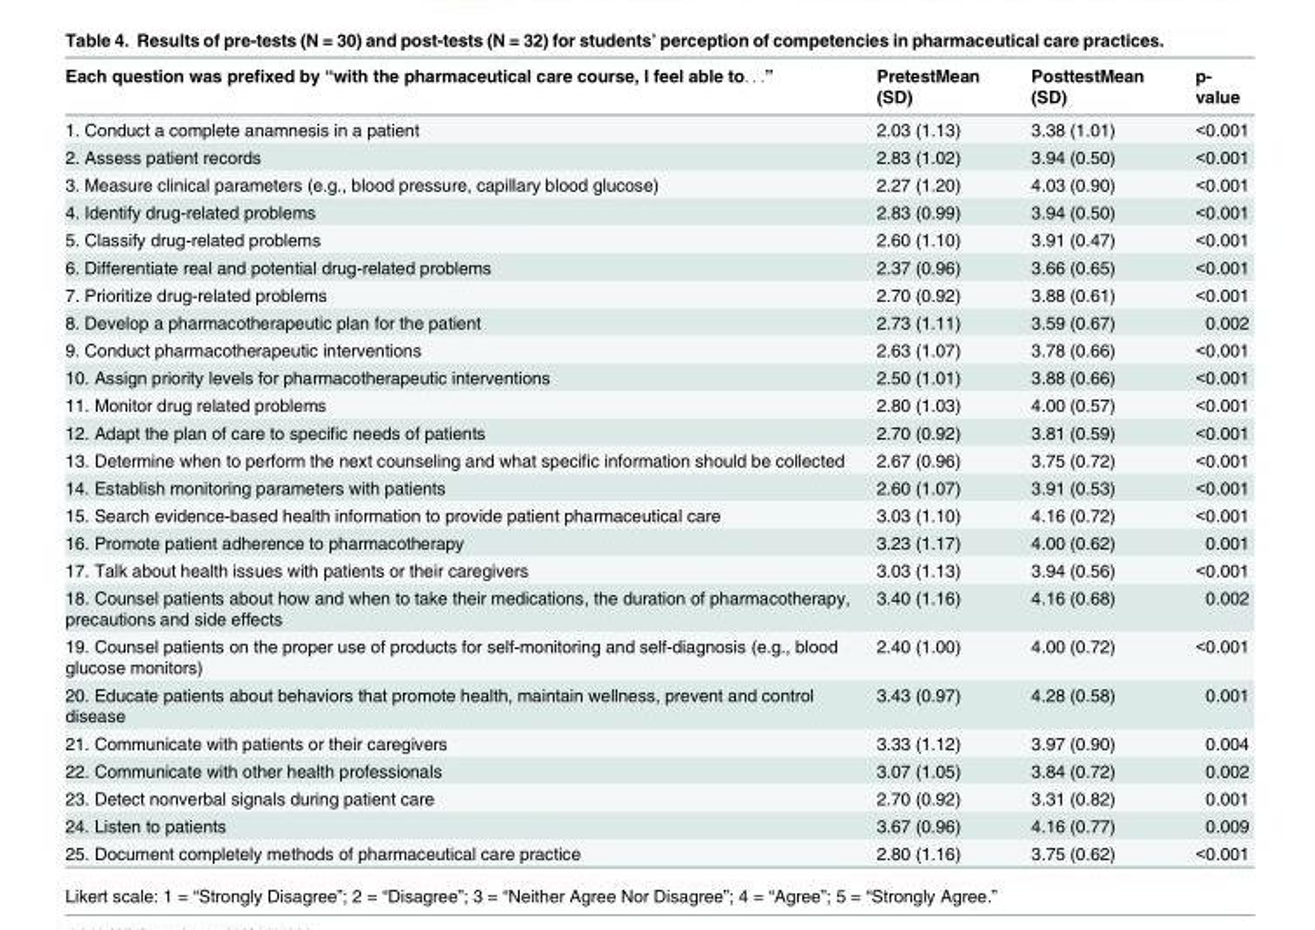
<table><thead><tr><td>Each question was prefixed by “with the pharmaceutical care course, I feel able to. . .”</td><td>PretestMean (SD)</td><td>PosttestMean (SD)</td><td>p- value</td></tr></thead><tbody><tr><td>1. Conduct a complete anamnesis in a patient</td><td>2.03 (1.13)</td><td>3.38 (1.01)</td><td>&lt;0.001</td></tr><tr><td>2. Assess patient records</td><td>2.83 (1.02)</td><td>3.94 (0.50)</td><td>&lt;0.001</td></tr><tr><td>3. Measure clinical parameters (e.g., blood pressure, capillary blood glucose)</td><td>2.27 (1.20)</td><td>4.03 (0.90)</td><td>&lt;0.001</td></tr><tr><td>4. Identify drug-related problems</td><td>2.83 (0.99)</td><td>3.94 (0.50)</td><td>&lt;0.001</td></tr><tr><td>5. Classify drug-related problems</td><td>2.60 (1.10)</td><td>3.91 (0.47)</td><td>&lt;0.001</td></tr><tr><td>6. Differentiate real and potential drug-related problems</td><td>2.37 (0.96)</td><td>3.66 (0.65)</td><td>&lt;0.001</td></tr><tr><td>7. Prioritize drug-related problems</td><td>2.70 (0.92)</td><td>3.88 (0.61)</td><td>&lt;0.001</td></tr><tr><td>8. Develop a pharmacotherapeutic plan for the patient</td><td>2.73 (1.11)</td><td>3.59 (0.67)</td><td>0.002</td></tr><tr><td>9. Conduct pharmacotherapeutic interventions</td><td>2.63 (1.07)</td><td>3.78 (0.66)</td><td>&lt;0.001</td></tr><tr><td>10. Assign priority levels for pharmacotherapeutic interventions</td><td>2.50 (1.01)</td><td>3.88 (0.66)</td><td>&lt;0.001</td></tr><tr><td>11. Monitor drug related problems</td><td>2.80 (1.03)</td><td>4.00 (0.57)</td><td>&lt;0.001</td></tr><tr><td>12. Adapt the plan of care to specific needs of patients</td><td>2.70 (0.92)</td><td>3.81 (0.59)</td><td>&lt;0.001</td></tr><tr><td>13. Determine when to perform the next counseling and what specific information should be collected</td><td>2.67 (0.96)</td><td>3.75 (0.72)</td><td>&lt;0.001</td></tr><tr><td>14. Establish monitoring parameters with patients</td><td>2.60 (1.07)</td><td>3.91 (0.53)</td><td>&lt;0.001</td></tr><tr><td>15. Search evidence-based health information to provide patient pharmaceutical care</td><td>3.03 (1.10)</td><td>4.16 (0.72)</td><td>&lt;0.001</td></tr><tr><td>16. Promote patient adherence to pharmacotherapy</td><td>3.23 (1.17)</td><td>4.00 (0.62)</td><td>0.001</td></tr><tr><td>17. Talk about health issues with patients or their caregivers</td><td>3.03 (1.13)</td><td>3.94 (0.56)</td><td>&lt;0.001</td></tr><tr><td>18. Counsel patients about how and when to take their medications, the duration of pharmacotherapy, precautions and side effects</td><td>3.40 (1.16)</td><td>4.16 (0.68)</td><td>0.002</td></tr><tr><td>19. Counsel patients on the proper use of products for self-monitoring and self-diagnosis (e.g., blood glucose monitors)</td><td>2.40 (1.00)</td><td>4.00 (0.72)</td><td>&lt;0.001</td></tr><tr><td>20. Educate patients about behaviors that promote health, maintain wellness, prevent and control disease</td><td>3.43 (0.97)</td><td>4.28 (0.58)</td><td>0.001</td></tr><tr><td>21. Communicate with patients or their caregivers</td><td>3.33 (1.12)</td><td>3.97 (0.90)</td><td>0.004</td></tr><tr><td>22. Communicate with other health professionals</td><td>3.07 (1.05)</td><td>3.84 (0.72)</td><td>0.002</td></tr><tr><td>23. Detect nonverbal signals during patient care</td><td>2.70 (0.92)</td><td>3.31 (0.82)</td><td>0.001</td></tr><tr><td>24. Listen to patients</td><td>3.67 (0.96)</td><td>4.16 (0.77)</td><td>0.009</td></tr><tr><td>25. Document completely methods of pharmaceutical care practice</td><td>2.80 (1.16)</td><td>3.75 (0.62)</td><td>&lt;0.001</td></tr></tbody></table>